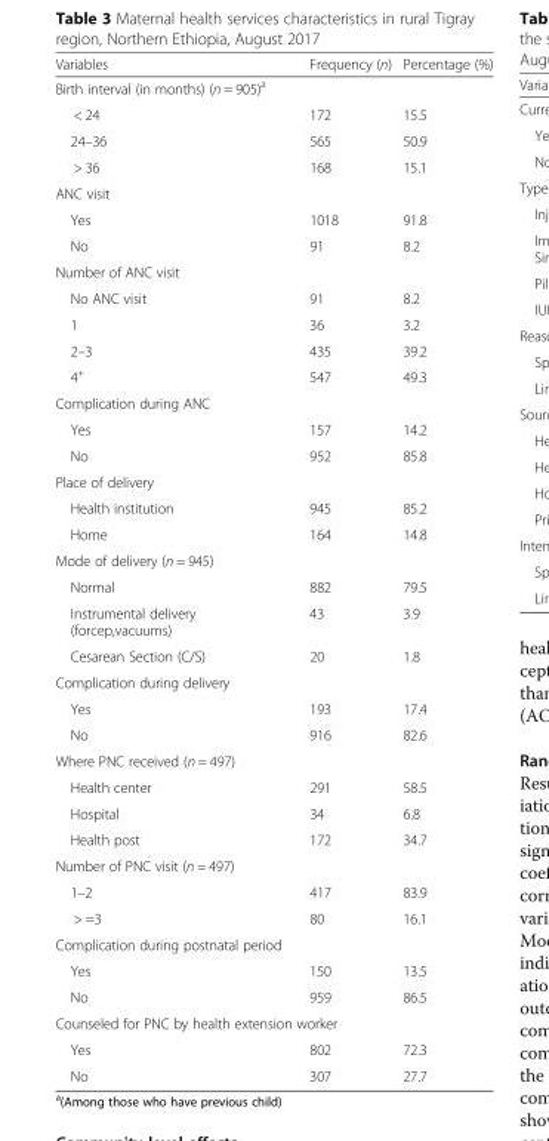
<table><thead><tr><td>Variables</td><td>Frequency (n)</td><td>Percentage (%)</td></tr></thead><tbody><tr><td colspan="3">Birth interval (in months) (n = 905)<sup>a</sup></td></tr><tr><td>&lt; 24</td><td>172</td><td>15.5</td></tr><tr><td>24–36</td><td>565</td><td>50.9</td></tr><tr><td>&gt; 36</td><td>168</td><td>15.1</td></tr><tr><td colspan="3">ANC visit</td></tr><tr><td>Yes</td><td>1018</td><td>91.8</td></tr><tr><td>No</td><td>91</td><td>8.2</td></tr><tr><td colspan="3">Number of ANC visit</td></tr><tr><td>No ANC visit</td><td>91</td><td>8.2</td></tr><tr><td>1</td><td>36</td><td>3.2</td></tr><tr><td>2–3</td><td>435</td><td>39.2</td></tr><tr><td>4<sup>+</sup></td><td>547</td><td>49.3</td></tr><tr><td colspan="3">Complication during ANC</td></tr><tr><td>Yes</td><td>157</td><td>14.2</td></tr><tr><td>No</td><td>952</td><td>85.8</td></tr><tr><td colspan="3">Place of delivery</td></tr><tr><td>Health institution</td><td>945</td><td>85.2</td></tr><tr><td>Home</td><td>164</td><td>14.8</td></tr><tr><td colspan="3">Mode of delivery (n = 945)</td></tr><tr><td>Normal</td><td>882</td><td>79.5</td></tr><tr><td>Instrumental delivery (forcep,vacuums)</td><td>43</td><td>3.9</td></tr><tr><td>Cesarean Section (C/S)</td><td>20</td><td>1.8</td></tr><tr><td colspan="3">Complication during delivery</td></tr><tr><td>Yes</td><td>193</td><td>17.4</td></tr><tr><td>No</td><td>916</td><td>82.6</td></tr><tr><td colspan="3">Where PNC received (n = 497)</td></tr><tr><td>Health center</td><td>291</td><td>58.5</td></tr><tr><td>Hospital</td><td>34</td><td>6.8</td></tr><tr><td>Health post</td><td>172</td><td>34.7</td></tr><tr><td colspan="3">Number of PNC visit (n = 497)</td></tr><tr><td>1–2</td><td>417</td><td>83.9</td></tr><tr><td>&gt; =3</td><td>80</td><td>16.1</td></tr><tr><td colspan="3">Complication during postnatal period</td></tr><tr><td>Yes</td><td>150</td><td>13.5</td></tr><tr><td>No</td><td>959</td><td>86.5</td></tr><tr><td colspan="3">Counseled for PNC by health extension worker</td></tr><tr><td>Yes</td><td>802</td><td>72.3</td></tr><tr><td>No</td><td>307</td><td>27.7</td></tr></tbody></table>